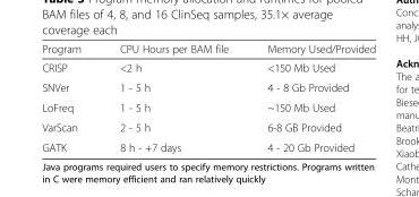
<table><thead><tr><td>Program</td><td>CPU Hours per BAM file</td><td>Memory Used/Provided</td></tr></thead><tbody><tr><td>CRISP</td><td>&lt;2 h</td><td>&lt;150 Mb Used</td></tr><tr><td>SNVer</td><td>1 - 5 h</td><td>4 - 8 Gb Provided</td></tr><tr><td>LoFreq</td><td>1 - 5 h</td><td>~150 Mb Used</td></tr><tr><td>VarScan</td><td>2 - 5 h</td><td>6-8 GB Provided</td></tr><tr><td>GATK</td><td>8 h - +7 days</td><td>4 - 20 Gb Provided</td></tr></tbody></table>